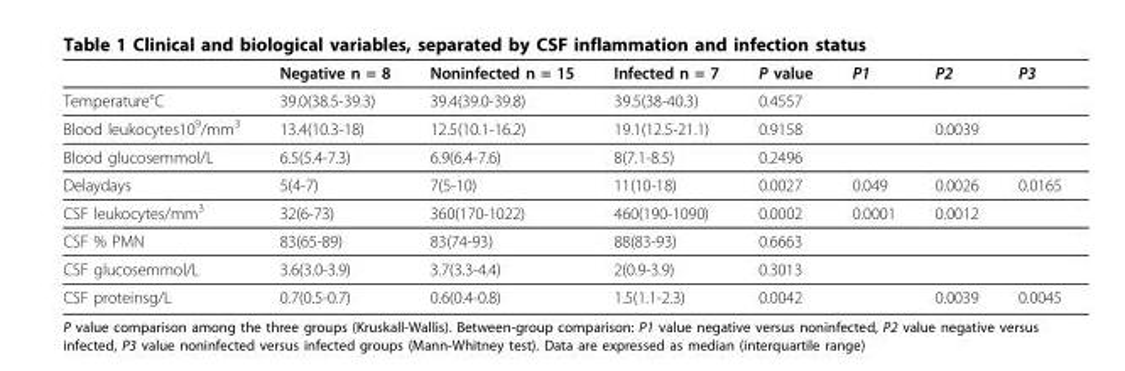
<table><thead><tr><td></td><td>Negative n = 8</td><td>Noninfected n = 15</td><td>Infected n = 7</td><td>P value</td><td>P1</td><td>P2</td><td>P3</td></tr></thead><tbody><tr><td>Temperature°C</td><td>39.0(38.5-39.3)</td><td>39.4(39.0-39.8)</td><td>39.5(38-40.3)</td><td>0.4557</td><td></td><td></td><td></td></tr><tr><td>Blood leukocytes10<sup>9</sup>/mm<sup>3</sup></td><td>13.4(10.3-18)</td><td>12.5(10.1-16.2)</td><td>19.1(12.5-21.1)</td><td>0.9158</td><td></td><td>0.0039</td><td></td></tr><tr><td>Blood glucosemmol/L</td><td>6.5(5.4-7.3)</td><td>6.9(6.4-7.6)</td><td>8(7.1-8.5)</td><td>0.2496</td><td></td><td></td><td></td></tr><tr><td>Delaydays</td><td>5(4-7)</td><td>7(5-10)</td><td>11(10-18)</td><td>0.0027</td><td>0.049</td><td>0.0026</td><td>0.0165</td></tr><tr><td>CSF leukocytes/mm<sup>3</sup></td><td>32(6-73)</td><td>360(170-1022)</td><td>460(190-1090)</td><td>0.0002</td><td>0.0001</td><td>0.0012</td><td></td></tr><tr><td>CSF % PMN</td><td>83(65-89)</td><td>83(74-93)</td><td>88(83-93)</td><td>0.6663</td><td></td><td></td><td></td></tr><tr><td>CSF glucosemmol/L</td><td>3.6(3.0-3.9)</td><td>3.7(3.3-4.4)</td><td>2(0.9-3.9)</td><td>0.3013</td><td></td><td></td><td></td></tr><tr><td>CSF proteinsg/L</td><td>0.7(0.5-0.7)</td><td>0.6(0.4-0.8)</td><td>1.5(1.1-2.3)</td><td>0.0042</td><td></td><td>0.0039</td><td>0.0045</td></tr></tbody></table>